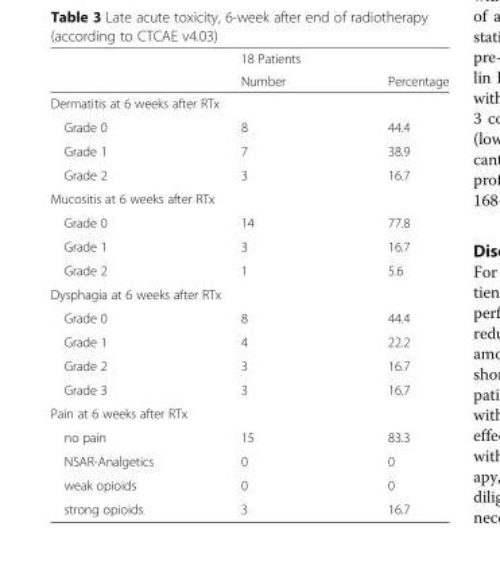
<table><thead><tr><td rowspan="2"></td><td rowspan="2">18 Patients Number</td><td rowspan="2">Percentage</td></tr><tr></tr></thead><tbody><tr><td colspan="3">Dermatitis at 6 weeks after RTx</td></tr><tr><td>Grade 0</td><td>8</td><td>44.4</td></tr><tr><td>Grade 1</td><td>7</td><td>38.9</td></tr><tr><td>Grade 2</td><td>3</td><td>16.7</td></tr><tr><td colspan="3">Mucositis at 6 weeks after RTx</td></tr><tr><td>Grade 0</td><td>14</td><td>77.8</td></tr><tr><td>Grade 1</td><td>3</td><td>16.7</td></tr><tr><td>Grade 2</td><td>1</td><td>5.6</td></tr><tr><td colspan="3">Dysphagia at 6 weeks after RTx</td></tr><tr><td>Grade 0</td><td>8</td><td>44.4</td></tr><tr><td>Grade 1</td><td>4</td><td>22.2</td></tr><tr><td>Grade 2</td><td>3</td><td>16.7</td></tr><tr><td>Grade 3</td><td>3</td><td>16.7</td></tr><tr><td colspan="3">Pain at 6 weeks after RTx</td></tr><tr><td>no pain</td><td>15</td><td>83.3</td></tr><tr><td>NSAR-Analgetics</td><td>0</td><td>0</td></tr><tr><td>weak opioids</td><td>0</td><td>0</td></tr><tr><td>strong opioids</td><td>3</td><td>16.7</td></tr></tbody></table>